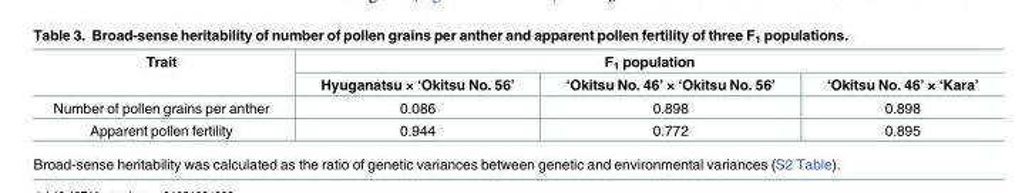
<table><thead><tr><td rowspan="2">Trait</td><td colspan="3">F<sub>1</sub> population</td></tr><tr><td>Hyuganatsu × ‘Okitsu No. 56’</td><td>‘Okitsu No. 46’ × ‘Okitsu No. 56’</td><td>‘Okitsu No. 46’ × ‘Kara’</td></tr></thead><tbody><tr><td>Number of pollen grains per anther</td><td>0.086</td><td>0.898</td><td>0.898</td></tr><tr><td>Apparent pollen fertility</td><td>0.944</td><td>0.772</td><td>0.895</td></tr></tbody></table>